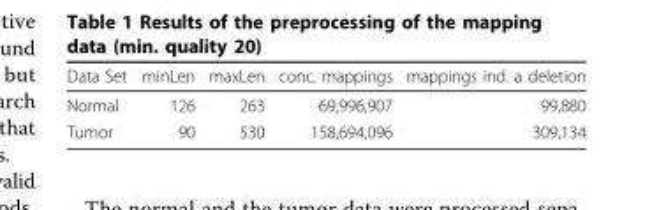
<table><thead><tr><td>Data Set</td><td>minLen</td><td>maxLen</td><td>conc. mappings</td><td>mappings ind. a deletion</td></tr></thead><tbody><tr><td>Normal</td><td>126</td><td>263</td><td>69,996,907</td><td>99,880</td></tr><tr><td>Tumor</td><td>90</td><td>530</td><td>158,694,096</td><td>309,134</td></tr></tbody></table>